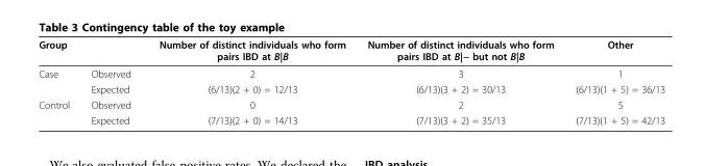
<table><thead><tr><td>Group</td><td></td><td>Number of distinct individuals who form pairs IBD at B|B</td><td>Number of distinct individuals who form pairs IBD at B|− but not B|B</td><td>Other</td></tr></thead><tbody><tr><td rowspan="2">Case</td><td>Observed</td><td>2</td><td>3</td><td>1</td></tr><tr><td>Expected</td><td>(6/13)(2 + 0) = 12/13</td><td>(6/13)(3 + 2) = 30/13</td><td>(6/13)(1 + 5) = 36/13</td></tr><tr><td rowspan="2">Control</td><td>Observed</td><td>0</td><td>2</td><td>5</td></tr><tr><td>Expected</td><td>(7/13)(2 + 0) = 14/13</td><td>(7/13)(3 + 2) = 35/13</td><td>(7/13)(1 + 5) = 42/13</td></tr></tbody></table>